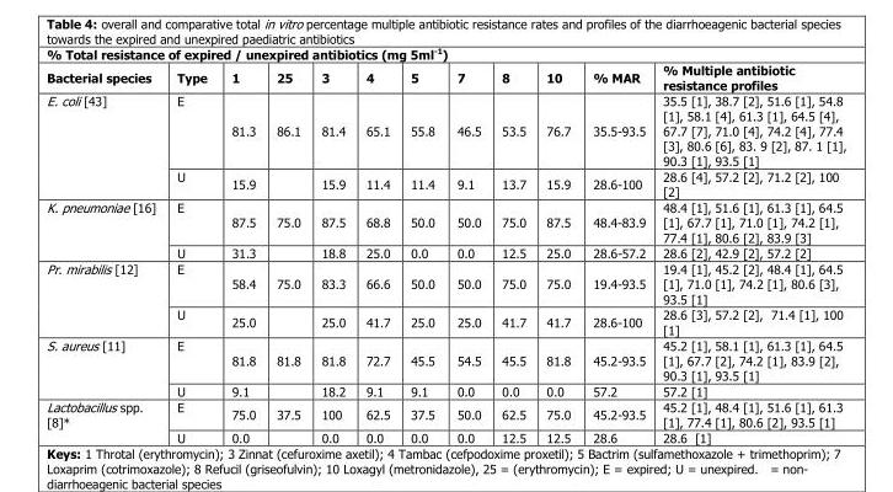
<table><thead><tr><td colspan="12">% Total resistance of expired / unexpired antibiotics (mg 5ml<sup>-1</sup>)</td></tr><tr><td>Bacterial species</td><td>Type</td><td>1</td><td>25</td><td>3</td><td>4</td><td>5</td><td>7</td><td>8</td><td>10</td><td>% MAR</td><td>% Multiple antibiotic resistance profiles</td></tr></thead><tbody><tr><td rowspan="2">E. coli [43]</td><td>E</td><td>81.3</td><td>86.1</td><td>81.4</td><td>65.1</td><td>55.8</td><td>46.5</td><td>53.5</td><td>76.7</td><td>35.5-93.5</td><td>35.5 [1], 38.7 [2], 51.6 [1], 54.8 [1], 58.1 [4], 61.3 [1], 64.5 [4], 67.7 [7], 71.0 [4], 74.2 [4], 77.4 [3], 80.6 [6], 83. 9 [2], 87. 1 [1], 90.3 [1], 93.5 [1]</td></tr><tr><td>U</td><td>15.9</td><td></td><td>15.9</td><td>11.4</td><td>11.4</td><td>9.1</td><td>13.7</td><td>15.9</td><td>28.6-100</td><td>28.6 [4], 57.2 [2], 71.2 [2], 100 [2]</td></tr><tr><td rowspan="2">K. pneumoniae [16]</td><td>E</td><td>87.5</td><td>75.0</td><td>87.5</td><td>68.8</td><td>50.0</td><td>50.0</td><td>75.0</td><td>87.5</td><td>48.4-83.9</td><td>48.4 [1], 51.6 [1], 61.3 [1], 64.5 [1], 67.7 [1], 71.0 [1], 74.2 [1], 77.4 [1], 80.6 [2], 83.9 [3]</td></tr><tr><td>U</td><td>31.3</td><td></td><td>18.8</td><td>25.0</td><td>0.0</td><td>0.0</td><td>12.5</td><td>25.0</td><td>28.6-57.2</td><td>28.6 [2], 42.9 [2], 57.2 [2]</td></tr><tr><td rowspan="2">Pr. mirabilis [12]</td><td>E</td><td>58.4</td><td>75.0</td><td>83.3</td><td>66.6</td><td>50.0</td><td>50.0</td><td>75.0</td><td>75.0</td><td>19.4-93.5</td><td>19.4 [1], 45.2 [2], 48.4 [1], 64.5 [1], 71.0 [1], 74.2 [1], 80.6 [3], 93.5 [1]</td></tr><tr><td>U</td><td>25.0</td><td></td><td>25.0</td><td>41.7</td><td>25.0</td><td>25.0</td><td>41.7</td><td>41.7</td><td>28.6-100</td><td>28.6 [3], 57.2 [2], 71.4 [1], 100 [1]</td></tr><tr><td rowspan="2">S. aureus [11]</td><td>E</td><td>81.8</td><td>81.8</td><td>81.8</td><td>72.7</td><td>45.5</td><td>54.5</td><td>45.5</td><td>81.8</td><td>45.2-93.5</td><td>45.2 [1], 58.1 [1], 61.3 [1], 64.5 [1], 67.7 [2], 74.2 [1], 83.9 [2], 90.3 [1], 93.5 [1]</td></tr><tr><td>U</td><td>9.1</td><td></td><td>18.2</td><td>9.1</td><td>9.1</td><td>0.0</td><td>0.0</td><td>0.0</td><td>57.2</td><td>57.2 [1]</td></tr><tr><td rowspan="2">Lactobacillus spp. [8]*</td><td>E</td><td>75.0</td><td>37.5</td><td>100</td><td>62.5</td><td>37.5</td><td>50.0</td><td>62.5</td><td>75.0</td><td>45.2-93.5</td><td>45.2 [1], 48.4 [1], 51.6 [1], 61.3 [1], 77.4 [1], 80.6 [2], 93.5 [1]</td></tr><tr><td>U</td><td>0.0</td><td></td><td>0.0</td><td>0.0</td><td>0.0</td><td>0.0</td><td>12.5</td><td>12.5</td><td>28.6</td><td>28.6 [1]</td></tr></tbody></table>